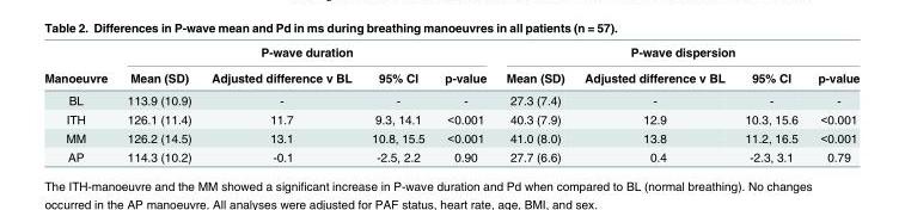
<table><thead><tr><td rowspan="2">Manoeuvre</td><td colspan="4">P-wave duration</td><td colspan="4">P-wave dispersion</td></tr><tr><td>Mean (SD)</td><td>Adjusted difference v BL</td><td>95% CI</td><td>p-value</td><td>Mean (SD)</td><td>Adjusted difference v BL</td><td>95% CI</td><td>p-value</td></tr></thead><tbody><tr><td>BL</td><td>113.9 (10.9)</td><td>-</td><td>-</td><td>-</td><td>27.3 (7.4)</td><td>-</td><td>-</td><td>-</td></tr><tr><td>ITH</td><td>126.1 (11.4)</td><td>11.7</td><td>9.3, 14.1</td><td>&lt;0.001</td><td>40.3 (7.9)</td><td>12.9</td><td>10.3, 15.6</td><td>&lt;0.001</td></tr><tr><td>MM</td><td>126.2 (14.5)</td><td>13.1</td><td>10.8, 15.5</td><td>&lt;0.001</td><td>41.0 (8.0)</td><td>13.8</td><td>11.2, 16.5</td><td>&lt;0.001</td></tr><tr><td>AP</td><td>114.3 (10.2)</td><td>-0.1</td><td>-2.5, 2.2</td><td>0.90</td><td>27.7 (6.6)</td><td>0.4</td><td>-2.3, 3.1</td><td>0.79</td></tr></tbody></table>